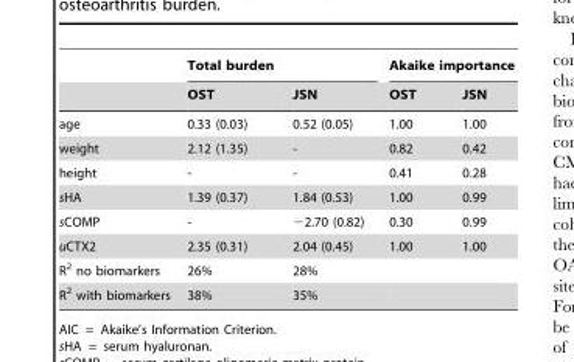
<table><thead><tr><td rowspan="2"></td><td colspan="2">Total burden</td><td colspan="2">Akaike importance</td></tr><tr><td>OST</td><td>JSN</td><td>OST</td><td>JSN</td></tr></thead><tbody><tr><td>age</td><td>0.33 (0.03)</td><td>0.52 (0.05)</td><td>1.00</td><td>1.00</td></tr><tr><td>weight</td><td>2.12 (1.35)</td><td>-</td><td>0.82</td><td>0.42</td></tr><tr><td>height</td><td>-</td><td>-</td><td>0.41</td><td>0.28</td></tr><tr><td>sHA</td><td>1.39 (0.37)</td><td>1.84 (0.53)</td><td>1.00</td><td>0.99</td></tr><tr><td>sCOMP</td><td>-</td><td>−2.70 (0.82)</td><td>0.30</td><td>0.99</td></tr><tr><td>uCTX2</td><td>2.35 (0.31)</td><td>2.04 (0.45)</td><td>1.00</td><td>1.00</td></tr><tr><td>R<sup>2</sup> no biomarkers</td><td>26%</td><td>28%</td><td colspan="2"></td></tr><tr><td>R<sup>2</sup> with biomarkers</td><td>38%</td><td>35%</td><td colspan="2"></td></tr></tbody></table>